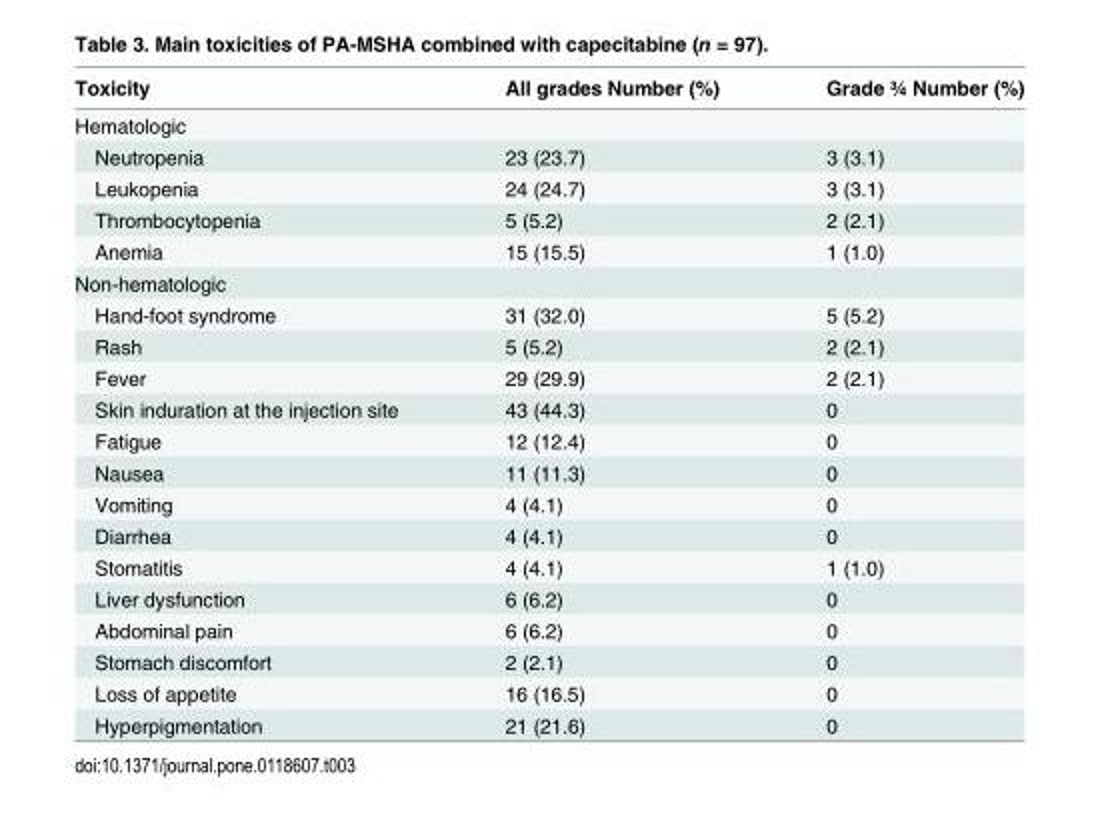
<table><thead><tr><td>Toxicity</td><td>All grades Number (%)</td><td>Grade ¾ Number (%)</td></tr></thead><tbody><tr><td colspan="3">Hematologic</td></tr><tr><td>Neutropenia</td><td>23 (23.7)</td><td>3 (3.1)</td></tr><tr><td>Leukopenia</td><td>24 (24.7)</td><td>3 (3.1)</td></tr><tr><td>Thrombocytopenia</td><td>5 (5.2)</td><td>2 (2.1)</td></tr><tr><td>Anemia</td><td>15 (15.5)</td><td>1 (1.0)</td></tr><tr><td colspan="3">Non-hematologic</td></tr><tr><td>Hand-foot syndrome</td><td>31 (32.0)</td><td>5 (5.2)</td></tr><tr><td>Rash</td><td>5 (5.2)</td><td>2 (2.1)</td></tr><tr><td>Fever</td><td>29 (29.9)</td><td>2 (2.1)</td></tr><tr><td>Skin induration at the injection site</td><td>43 (44.3)</td><td>0</td></tr><tr><td>Fatigue</td><td>12 (12.4)</td><td>0</td></tr><tr><td>Nausea</td><td>11 (11.3)</td><td>0</td></tr><tr><td>Vomiting</td><td>4 (4.1)</td><td>0</td></tr><tr><td>Diarrhea</td><td>4 (4.1)</td><td>0</td></tr><tr><td>Stomatitis</td><td>4 (4.1)</td><td>1 (1.0)</td></tr><tr><td>Liver dysfunction</td><td>6 (6.2)</td><td>0</td></tr><tr><td>Abdominal pain</td><td>6 (6.2)</td><td>0</td></tr><tr><td>Stomach discomfort</td><td>2 (2.1)</td><td>0</td></tr><tr><td>Loss of appetite</td><td>16 (16.5)</td><td>0</td></tr><tr><td>Hyperpigmentation</td><td>21 (21.6)</td><td>0</td></tr></tbody></table>